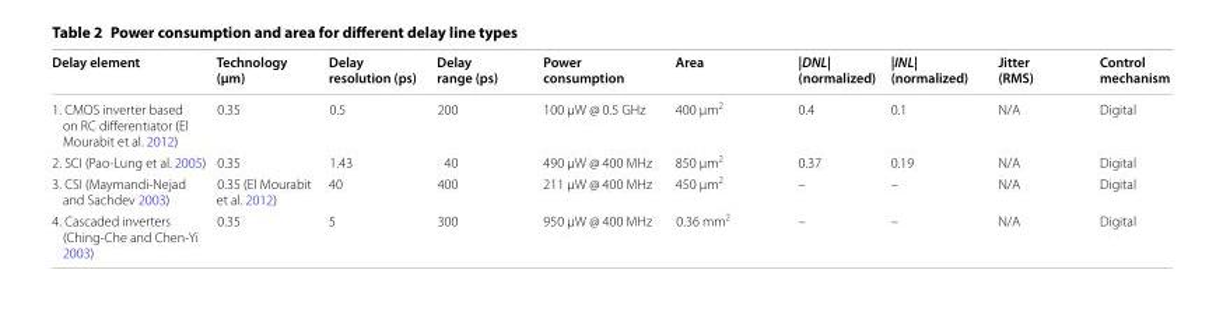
<table><thead><tr><td>Delay element</td><td>Technology (μm)</td><td>Delay resolution (ps)</td><td>Delay range (ps)</td><td>Power consumption</td><td>Area</td><td>|DNL| (normalized)</td><td>|INL| (normalized)</td><td>Jitter (RMS)</td><td>Control mechanism</td></tr></thead><tbody><tr><td>1. CMOS inverter based on RC differentiator (El Mourabit et al. 2012)</td><td>0.35</td><td>0.5</td><td>200</td><td>100 μW @ 0.5 GHz</td><td>400 μm<sup>2</sup></td><td>0.4</td><td>0.1</td><td>N/A</td><td>Digital</td></tr><tr><td>2. SCI (Pao-Lung et al. 2005)</td><td>0.35</td><td>1.43</td><td>40</td><td>490 μW @ 400 MHz</td><td>850 μm<sup>2</sup></td><td>0.37</td><td>0.19</td><td>N/A</td><td>Digital</td></tr><tr><td>3. CSI (Maymandi-Nejad and Sachdev 2003)</td><td>0.35 (El Mourabit et al. 2012)</td><td>40</td><td>400</td><td>211 μW @ 400 MHz</td><td>450 μm<sup>2</sup></td><td>–</td><td>–</td><td>N/A</td><td>Digital</td></tr><tr><td>4. Cascaded inverters (Ching-Che and Chen-Yi 2003)</td><td>0.35</td><td>5</td><td>300</td><td>950 μW @ 400 MHz</td><td>0.36 mm<sup>2</sup></td><td>–</td><td>–</td><td>N/A</td><td>Digital</td></tr></tbody></table>